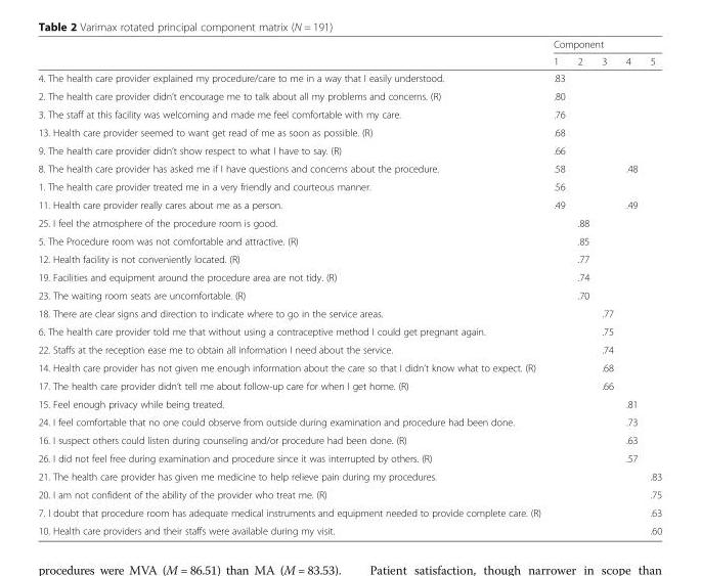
<table><thead><tr><td rowspan="2"></td><td colspan="5">Component</td></tr><tr><td>1</td><td>2</td><td>3</td><td>4</td><td>5</td></tr></thead><tbody><tr><td>4. The health care provider explained my procedure/care to me in a way that I easily understood.</td><td>.83</td><td></td><td></td><td></td><td></td></tr><tr><td>2. The health care provider didn’t encourage me to talk about all my problems and concerns. (R)</td><td>.80</td><td></td><td></td><td></td><td></td></tr><tr><td>3. The staff at this facility was welcoming and made me feel comfortable with my care.</td><td>.76</td><td></td><td></td><td></td><td></td></tr><tr><td>13. Health care provider seemed to want get read of me as soon as possible. (R)</td><td>.68</td><td></td><td></td><td></td><td></td></tr><tr><td>9. The health care provider didn’t show respect to what I have to say. (R)</td><td>.66</td><td></td><td></td><td></td><td></td></tr><tr><td>8. The health care provider has asked me if I have questions and concerns about the procedure.</td><td>.58</td><td></td><td></td><td>.48</td><td></td></tr><tr><td>1. The health care provider treated me in a very friendly and courteous manner.</td><td>.56</td><td></td><td></td><td></td><td></td></tr><tr><td>11. Health care provider really cares about me as a person.</td><td>.49</td><td></td><td></td><td>.49</td><td></td></tr><tr><td>25. I feel the atmosphere of the procedure room is good.</td><td></td><td>.88</td><td></td><td></td><td></td></tr><tr><td>5. The Procedure room was not comfortable and attractive. (R)</td><td></td><td>.85</td><td></td><td></td><td></td></tr><tr><td>12. Health facility is not conveniently located. (R)</td><td></td><td>.77</td><td></td><td></td><td></td></tr><tr><td>19. Facilities and equipment around the procedure area are not tidy. (R)</td><td></td><td>.74</td><td></td><td></td><td></td></tr><tr><td>23. The waiting room seats are uncomfortable. (R)</td><td></td><td>.70</td><td></td><td></td><td></td></tr><tr><td>18. There are clear signs and direction to indicate where to go in the service areas.</td><td></td><td></td><td>.77</td><td></td><td></td></tr><tr><td>6. The health care provider told me that without using a contraceptive method I could get pregnant again.</td><td></td><td></td><td>.75</td><td></td><td></td></tr><tr><td>22. Staffs at the reception ease me to obtain all information I need about the service.</td><td></td><td></td><td>.74</td><td></td><td></td></tr><tr><td>14. Health care provider has not given me enough information about the care so that I didn’t know what to expect. (R)</td><td></td><td></td><td>.68</td><td></td><td></td></tr><tr><td>17. The health care provider didn’t tell me about follow-up care for when I get home. (R)</td><td></td><td></td><td>.66</td><td></td><td></td></tr><tr><td>15. Feel enough privacy while being treated.</td><td></td><td></td><td></td><td>.81</td><td></td></tr><tr><td>24. I feel comfortable that no one could observe from outside during examination and procedure had been done.</td><td></td><td></td><td></td><td>.73</td><td></td></tr><tr><td>16. I suspect others could listen during counseling and/or procedure had been done. (R)</td><td></td><td></td><td></td><td>.63</td><td></td></tr><tr><td>26. I did not feel free during examination and procedure since it was interrupted by others. (R)</td><td></td><td></td><td></td><td>.57</td><td></td></tr><tr><td>21. The health care provider has given me medicine to help relieve pain during my procedures.</td><td></td><td></td><td></td><td></td><td>.83</td></tr><tr><td>20. I am not confident of the ability of the provider who treat me. (R)</td><td></td><td></td><td></td><td></td><td>.75</td></tr><tr><td>7. I doubt that procedure room has adequate medical instruments and equipment needed to provide complete care. (R)</td><td></td><td></td><td></td><td></td><td>.63</td></tr><tr><td>10. Health care providers and their staffs were available during my visit.</td><td></td><td></td><td></td><td></td><td>.60</td></tr></tbody></table>